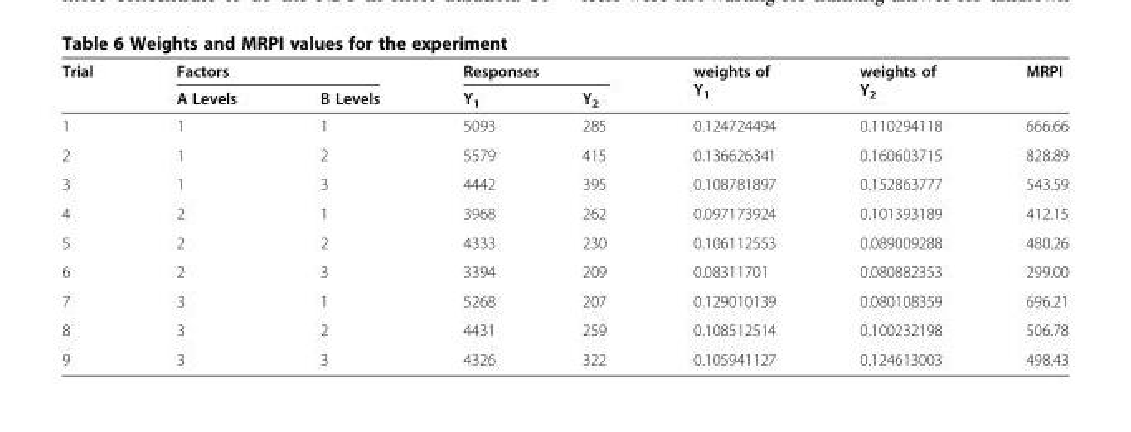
<table><thead><tr><td rowspan="2">Trial</td><td colspan="2">Factors</td><td colspan="2">Responses</td><td rowspan="2">weights of Y<sub>1</sub></td><td rowspan="2">weights of Y<sub>2</sub></td><td rowspan="2">MRPI</td></tr><tr><td>A Levels</td><td>B Levels</td><td>Y<sub>1</sub></td><td>Y<sub>2</sub></td></tr></thead><tbody><tr><td>1</td><td>1</td><td>1</td><td>5093</td><td>285</td><td>0.124724494</td><td>0.110294118</td><td>666.66</td></tr><tr><td>2</td><td>1</td><td>2</td><td>5579</td><td>415</td><td>0.136626341</td><td>0.160603715</td><td>828.89</td></tr><tr><td>3</td><td>1</td><td>3</td><td>4442</td><td>395</td><td>0.108781897</td><td>0.152863777</td><td>543.59</td></tr><tr><td>4</td><td>2</td><td>1</td><td>3968</td><td>262</td><td>0.097173924</td><td>0.101393189</td><td>412.15</td></tr><tr><td>5</td><td>2</td><td>2</td><td>4333</td><td>230</td><td>0.106112553</td><td>0.089009288</td><td>480.26</td></tr><tr><td>6</td><td>2</td><td>3</td><td>3394</td><td>209</td><td>0.08311701</td><td>0.080882353</td><td>299.00</td></tr><tr><td>7</td><td>3</td><td>1</td><td>5268</td><td>207</td><td>0.129010139</td><td>0.080108359</td><td>696.21</td></tr><tr><td>8</td><td>3</td><td>2</td><td>4431</td><td>259</td><td>0.108512514</td><td>0.100232198</td><td>506.78</td></tr><tr><td>9</td><td>3</td><td>3</td><td>4326</td><td>322</td><td>0.105941127</td><td>0.124613003</td><td>498.43</td></tr></tbody></table>